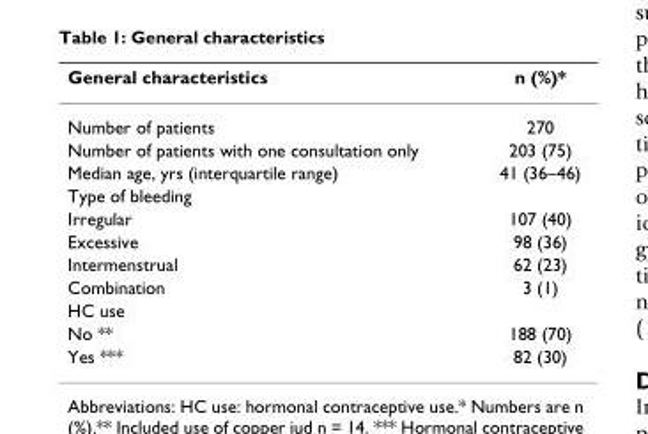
<table><thead><tr><td>General characteristics</td><td>n (%)*</td></tr></thead><tbody><tr><td>Number of patients</td><td>270</td></tr><tr><td>Number of patients with one consultation only</td><td>203 (75)</td></tr><tr><td>Median age, yrs (interquartile range)</td><td>41 (36–46)</td></tr><tr><td colspan="2">Type of bleeding</td></tr><tr><td>Irregular</td><td>107 (40)</td></tr><tr><td>Excessive</td><td>98 (36)</td></tr><tr><td>Intermenstrual</td><td>62 (23)</td></tr><tr><td>Combination</td><td>3 (1)</td></tr><tr><td colspan="2">HC use</td></tr><tr><td>No **</td><td>188 (70)</td></tr><tr><td>Yes ***</td><td>82 (30)</td></tr></tbody></table>